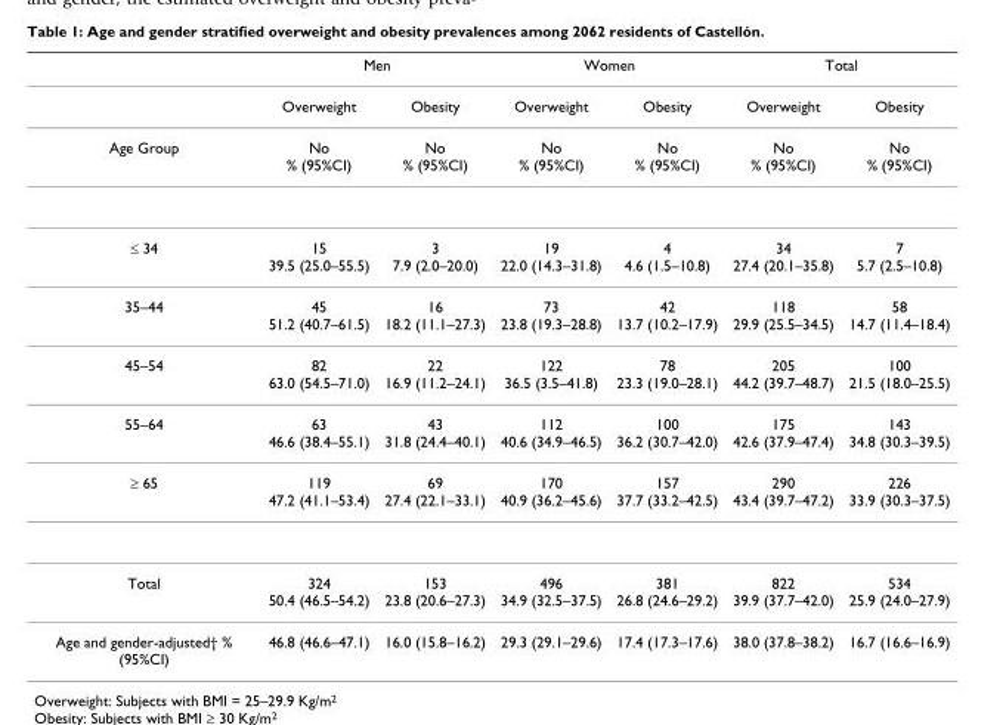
<table><thead><tr><td rowspan="2"></td><td colspan="2">Men</td><td colspan="2">Women</td><td colspan="2">Total</td></tr><tr><td>Overweight</td><td>Obesity</td><td>Overweight</td><td>Obesity</td><td>Overweight</td><td>Obesity</td></tr></thead><tbody><tr><td>Age Group</td><td>No % (95%CI)</td><td>No % (95%CI)</td><td>No % (95%CI)</td><td>No % (95%CI)</td><td>No % (95%CI)</td><td>No % (95%CI)</td></tr><tr><td>≤ 34</td><td>15 39.5 (25.0–55.5)</td><td>3 7.9 (2.0–20.0)</td><td>19 22.0 (14.3–31.8)</td><td>4 4.6 (1.5–10.8)</td><td>34 27.4 (20.1–35.8)</td><td>7 5.7 (2.5–10.8)</td></tr><tr><td>35–44</td><td>45 51.2 (40.7–61.5)</td><td>16 18.2 (11.1–27.3)</td><td>73 23.8 (19.3–28.8)</td><td>42 13.7 (10.2–17.9)</td><td>118 29.9 (25.5–34.5)</td><td>58 14.7 (11.4–18.4)</td></tr><tr><td>45–54</td><td>82 63.0 (54.5–71.0)</td><td>22 16.9 (11.2–24.1)</td><td>122 36.5 (3.5–41.8)</td><td>78 23.3 (19.0–28.1)</td><td>205 44.2 (39.7–48.7)</td><td>100 21.5 (18.0–25.5)</td></tr><tr><td>55–64</td><td>63 46.6 (38.4–55.1)</td><td>43 31.8 (24.4–40.1)</td><td>112 40.6 (34.9–46.5)</td><td>100 36.2 (30.7–42.0)</td><td>175 42.6 (37.9–47.4)</td><td>143 34.8 (30.3–39.5)</td></tr><tr><td>≥ 65</td><td>119 47.2 (41.1–53.4)</td><td>69 27.4 (22.1–33.1)</td><td>170 40.9 (36.2–45.6)</td><td>157 37.7 (33.2–42.5)</td><td>290 43.4 (39.7–47.2)</td><td>226 33.9 (30.3–37.5)</td></tr><tr><td>Total</td><td>324 50.4 (46.5–54.2)</td><td>153 23.8 (20.6–27.3)</td><td>496 34.9 (32.5–37.5)</td><td>381 26.8 (24.6–29.2)</td><td>822 39.9 (37.7–42.0)</td><td>534 25.9 (24.0–27.9)</td></tr><tr><td>Age and gender-adjusted† % (95%CI)</td><td>46.8 (46.6–47.1)</td><td>16.0 (15.8–16.2)</td><td>29.3 (29.1–29.6)</td><td>17.4 (17.3–17.6)</td><td>38.0 (37.8–38.2)</td><td>16.7 (16.6–16.9)</td></tr></tbody></table>